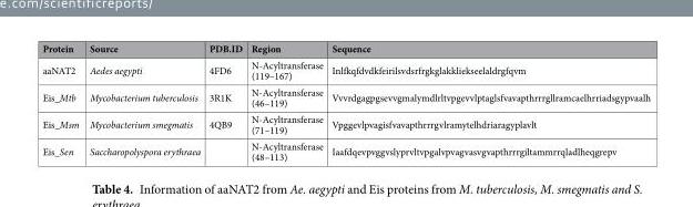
<table><thead><tr><td>Protein</td><td>Source</td><td>PDB.ID</td><td>Region</td><td>Sequence</td></tr></thead><tbody><tr><td>aaNAT2</td><td>Aedes aegypti</td><td>4FD6</td><td>N-Acyltransferase (119–167)</td><td>Inlfkqfdvdkfeirilsvdsrfrgkglakkliekseelaldrgfqvm</td></tr><tr><td>Eis_Mtb</td><td>Mycobacterium tuberculosis</td><td>3R1K</td><td>N-Acyltransferase (46–119)</td><td>Vvvrdgagpgsevvgmalymdlrltvpgevvlptaglsfvavapthrrrgllramcaelhrriadsgypvaalh</td></tr><tr><td>Eis_Msm</td><td>Mycobacterium smegmatis</td><td>4QB9</td><td>N-Acyltransferase (71–119)</td><td>Vpggevlpvagisfvavapthrrrgvlramytelhdriaragyplavlt</td></tr><tr><td>Eis_Sen</td><td>Saccharopolyspora erythraea</td><td></td><td>N-Acyltransferase (48–113)</td><td>Iaafdqevpvggvslyprvltvpgalvpvagvasvgvapthrrrgiltammrrqladlheqgrepv</td></tr></tbody></table>